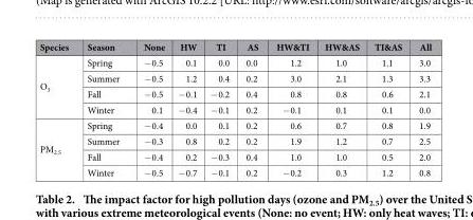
<table><thead><tr><td>Species</td><td>Season</td><td>None</td><td>HW</td><td>TI</td><td>AS</td><td>HW&amp;TI</td><td>HW&amp;AS</td><td>TI&amp;AS</td><td>All</td></tr></thead><tbody><tr><td rowspan="4">O<sub>3</sub></td><td>Spring</td><td>− 0.5</td><td>0.1</td><td>0.0</td><td>0.0</td><td>1.2</td><td>1.0</td><td>1.1</td><td>3.0</td></tr><tr><td>Summer</td><td>− 0.5</td><td>1.2</td><td>0.4</td><td>0.2</td><td>3.0</td><td>2.1</td><td>1.3</td><td>3.3</td></tr><tr><td>Fall</td><td>− 0.5</td><td>− 0.1</td><td>− 0.2</td><td>0.4</td><td>0.8</td><td>0.8</td><td>0.6</td><td>2.1</td></tr><tr><td>Winter</td><td>0.1</td><td>− 0.4</td><td>− 0.1</td><td>0.2</td><td>− 0.1</td><td>0.1</td><td>0.1</td><td>0.0</td></tr><tr><td rowspan="4">PM<sub>2.5</sub></td><td>Spring</td><td>− 0.4</td><td>0.0</td><td>0.1</td><td>0.2</td><td>0.6</td><td>0.7</td><td>0.8</td><td>1.9</td></tr><tr><td>Summer</td><td>− 0.3</td><td>0.8</td><td>0.2</td><td>0.2</td><td>1.9</td><td>1.2</td><td>0.7</td><td>2.5</td></tr><tr><td>Fall</td><td>− 0.4</td><td>0.2</td><td>− 0.3</td><td>0.4</td><td>1.0</td><td>1.0</td><td>0.5</td><td>2.0</td></tr><tr><td>Winter</td><td>− 0.5</td><td>− 0.7</td><td>− 0.1</td><td>0.2</td><td>− 0.2</td><td>0.3</td><td>1.2</td><td>0.8</td></tr></tbody></table>